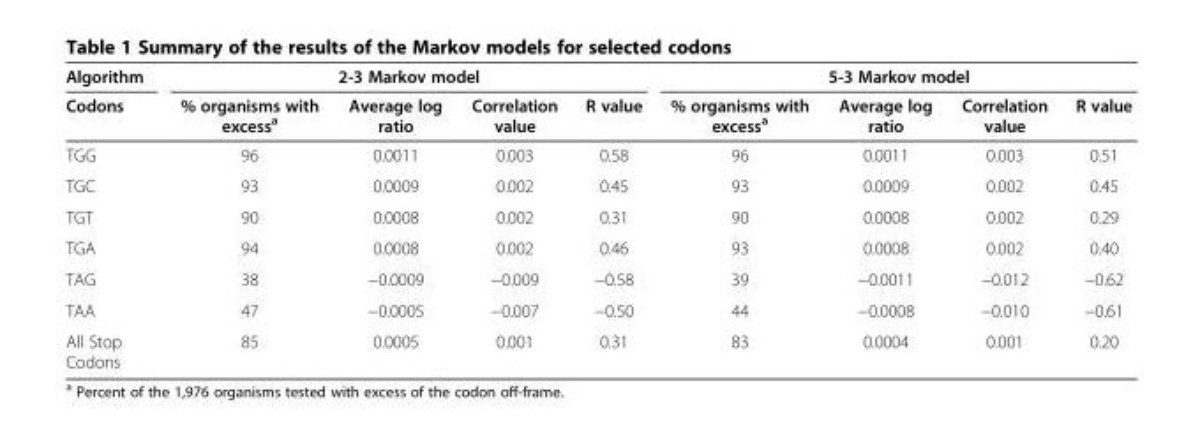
<table><thead><tr><td rowspan="2">Algorithm Codons</td><td colspan="4">2-3 Markov model</td><td colspan="4">5-3 Markov model</td></tr><tr><td>% organisms with excess<sup>a</sup></td><td>Average log ratio</td><td>Correlation value</td><td>R value</td><td>% organisms with excess<sup>a</sup></td><td>Average log ratio</td><td>Correlation value</td><td>R value</td></tr></thead><tbody><tr><td>TGG</td><td>96</td><td>0.0011</td><td>0.003</td><td>0.58</td><td>96</td><td>0.0011</td><td>0.003</td><td>0.51</td></tr><tr><td>TGC</td><td>93</td><td>0.0009</td><td>0.002</td><td>0.45</td><td>93</td><td>0.0009</td><td>0.002</td><td>0.45</td></tr><tr><td>TGT</td><td>90</td><td>0.0008</td><td>0.002</td><td>0.31</td><td>90</td><td>0.0008</td><td>0.002</td><td>0.29</td></tr><tr><td>TGA</td><td>94</td><td>0.0008</td><td>0.002</td><td>0.46</td><td>93</td><td>0.0008</td><td>0.002</td><td>0.40</td></tr><tr><td>TAG</td><td>38</td><td>−0.0009</td><td>−0.009</td><td>−0.58</td><td>39</td><td>−0.0011</td><td>−0.012</td><td>−0.62</td></tr><tr><td>TAA</td><td>47</td><td>−0.0005</td><td>−0.007</td><td>−0.50</td><td>44</td><td>−0.0008</td><td>−0.010</td><td>−0.61</td></tr><tr><td>All Stop Codons</td><td>85</td><td>0.0005</td><td>0.001</td><td>0.31</td><td>83</td><td>0.0004</td><td>0.001</td><td>0.20</td></tr></tbody></table>